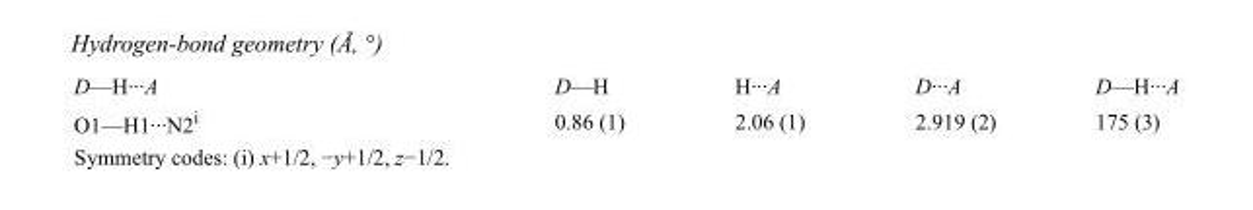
<table><tbody><tr><td>D—H···A</td><td>D—H</td><td>H···A</td><td>D···A</td><td>D—H···A</td></tr><tr><td>O1—H1···N2<sup>i</sup></td><td>0.86 (1)</td><td>2.06 (1)</td><td>2.919 (2)</td><td>175 (3)</td></tr></tbody></table>